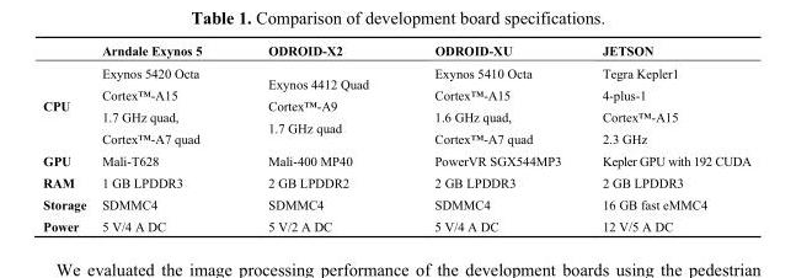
<table><thead><tr><td></td><td>Arndale Exynos 5</td><td>ODROID-X2</td><td>ODROID-XU</td><td>JETSON</td></tr></thead><tbody><tr><td>CPU</td><td>Exynos 5420 Octa Cortex™-A15 1.7 GHz quad, Cortex™-A7 quad</td><td>Exynos 4412 Quad Cortex™-A9 1.7 GHz quad</td><td>Exynos 5410 Octa Cortex™-A15 1.6 GHz quad, Cortex™-A7 quad</td><td>Tegra Kepler1 4-plus-1 Cortex™-A15 2.3 GHz</td></tr><tr><td>GPU</td><td>Mali-T628</td><td>Mali-400 MP40</td><td>PowerVR SGX544MP3</td><td>Kepler GPU with 192 CUDA</td></tr><tr><td>RAM</td><td>1 GB LPDDR3</td><td>2 GB LPDDR2</td><td>2 GB LPDDR3</td><td>2 GB LPDDR3</td></tr><tr><td>Storage</td><td>SDMMC4</td><td>SDMMC4</td><td>SDMMC4</td><td>16 GB fast eMMC4</td></tr><tr><td>Power</td><td>5 V/4 A DC</td><td>5 V/2 A DC</td><td>5 V/4 A DC</td><td>12 V/5 A DC</td></tr></tbody></table>